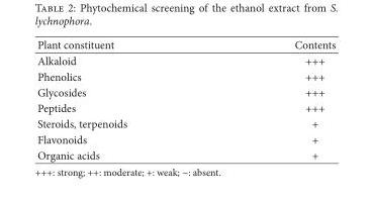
<table><thead><tr><td>Plant constituent</td><td>Contents</td></tr></thead><tbody><tr><td>Alkaloid</td><td>+++</td></tr><tr><td>Phenolics</td><td>+++</td></tr><tr><td>Glycosides</td><td>+++</td></tr><tr><td>Peptides</td><td>+++</td></tr><tr><td>Steroids, terpenoids</td><td>+</td></tr><tr><td>Flavonoids</td><td>+</td></tr><tr><td>Organic acids</td><td>+</td></tr></tbody></table>